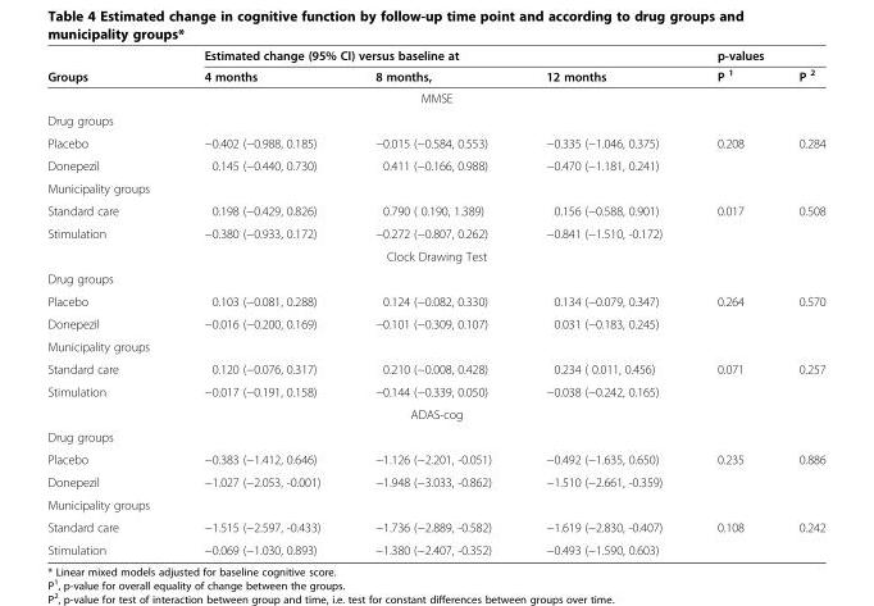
<table><thead><tr><td rowspan="2">Groups</td><td colspan="3">Estimated change (95% CI) versus baseline at</td><td colspan="2">p-values</td></tr><tr><td>4 months</td><td>8 months,</td><td>12 months</td><td>P <sup>1</sup></td><td>P <sup>2</sup></td></tr></thead><tbody><tr><td colspan="6">MMSE</td></tr><tr><td colspan="6">Drug groups</td></tr><tr><td>Placebo</td><td>−0.402 (−0.988, 0.185)</td><td>−0.015 (−0.584, 0.553)</td><td>−0.335 (−1.046, 0.375)</td><td>0.208</td><td>0.284</td></tr><tr><td>Donepezil</td><td>0.145 (−0.440, 0.730)</td><td>0.411 (−0.166, 0.988)</td><td>−0.470 (−1.181, 0.241)</td><td></td><td></td></tr><tr><td colspan="6">Municipality groups</td></tr><tr><td>Standard care</td><td>0.198 (−0.429, 0.826)</td><td>0.790 ( 0.190, 1.389)</td><td>0.156 (−0.588, 0.901)</td><td>0.017</td><td>0.508</td></tr><tr><td>Stimulation</td><td>−0.380 (−0.933, 0.172)</td><td>−0.272 (−0.807, 0.262)</td><td>−0.841 (−1.510, -0.172)</td><td></td><td></td></tr><tr><td colspan="6">Clock Drawing Test</td></tr><tr><td colspan="6">Drug groups</td></tr><tr><td>Placebo</td><td>0.103 (−0.081, 0.288)</td><td>0.124 (−0.082, 0.330)</td><td>0.134 (−0.079, 0.347)</td><td>0.264</td><td>0.570</td></tr><tr><td>Donepezil</td><td>−0.016 (−0.200, 0.169)</td><td>−0.101 (−0.309, 0.107)</td><td>0.031 (−0.183, 0.245)</td><td></td><td></td></tr><tr><td colspan="6">Municipality groups</td></tr><tr><td>Standard care</td><td>0.120 (−0.076, 0.317)</td><td>0.210 (−0.008, 0.428)</td><td>0.234 ( 0.011, 0.456)</td><td>0.071</td><td>0.257</td></tr><tr><td>Stimulation</td><td>−0.017 (−0.191, 0.158)</td><td>−0.144 (−0.339, 0.050)</td><td>−0.038 (−0.242, 0.165)</td><td></td><td></td></tr><tr><td colspan="6">ADAS-cog</td></tr><tr><td colspan="6">Drug groups</td></tr><tr><td>Placebo</td><td>−0.383 (−1.412, 0.646)</td><td>−1.126 (−2.201, -0.051)</td><td>−0.492 (−1.635, 0.650)</td><td>0.235</td><td>0.886</td></tr><tr><td>Donepezil</td><td>−1.027 (−2.053, -0.001)</td><td>−1.948 (−3.033, -0.862)</td><td>−1.510 (−2.661, -0.359)</td><td></td><td></td></tr><tr><td colspan="6">Municipality groups</td></tr><tr><td>Standard care</td><td>−1.515 (−2.597, -0.433)</td><td>−1.736 (−2.889, -0.582)</td><td>−1.619 (−2.830, -0.407)</td><td>0.108</td><td>0.242</td></tr><tr><td>Stimulation</td><td>−0.069 (−1.030, 0.893)</td><td>−1.380 (−2.407, -0.352)</td><td>−0.493 (−1.590, 0.603)</td><td></td><td></td></tr></tbody></table>